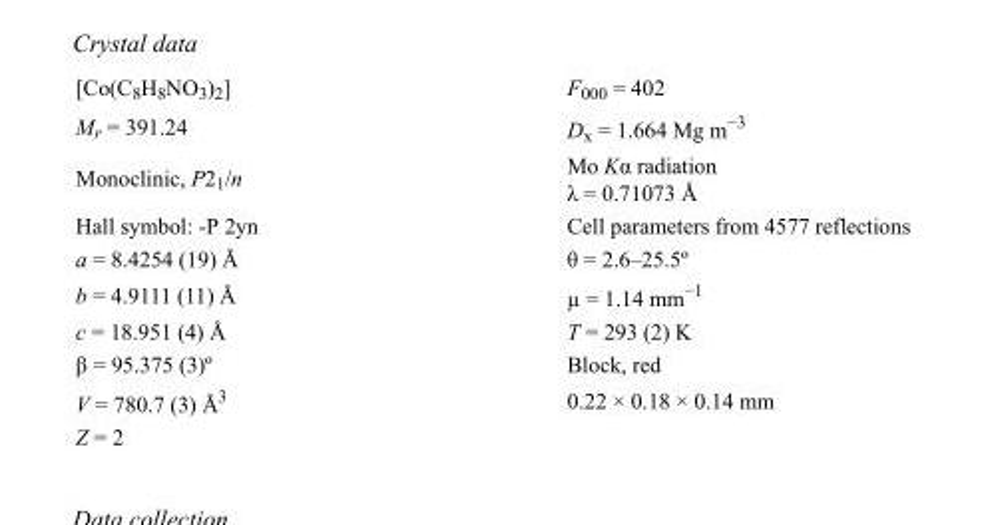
<table><tbody><tr><td>[Co(C<sub>8</sub>H<sub>8</sub>NO<sub>3</sub>)<sub>2</sub>]</td><td>F<sub>000</sub> = 402</td></tr><tr><td>M<sub>r</sub> = 391.24</td><td>D<sub>x</sub> = 1.664 Mg m<sup>−3</sup></td></tr><tr><td>Monoclinic, P2<sub>1</sub>/n</td><td>Mo Kα radiation λ = 0.71073 Å</td></tr><tr><td>Hall symbol: -P 2yn</td><td>Cell parameters from 4577 reflections</td></tr><tr><td>a = 8.4254 (19) Å</td><td>θ = 2.6–25.5º</td></tr><tr><td>b = 4.9111 (11) Å</td><td>µ = 1.14 mm<sup>−1</sup></td></tr><tr><td>c = 18.951 (4) Å</td><td>T = 293 (2) K</td></tr><tr><td>β = 95.375 (3)º</td><td>Block, red</td></tr><tr><td>V = 780.7 (3) Å<sup>3</sup></td><td>0.22 × 0.18 × 0.14 mm</td></tr><tr><td>Z = 2</td><td></td></tr></tbody></table>